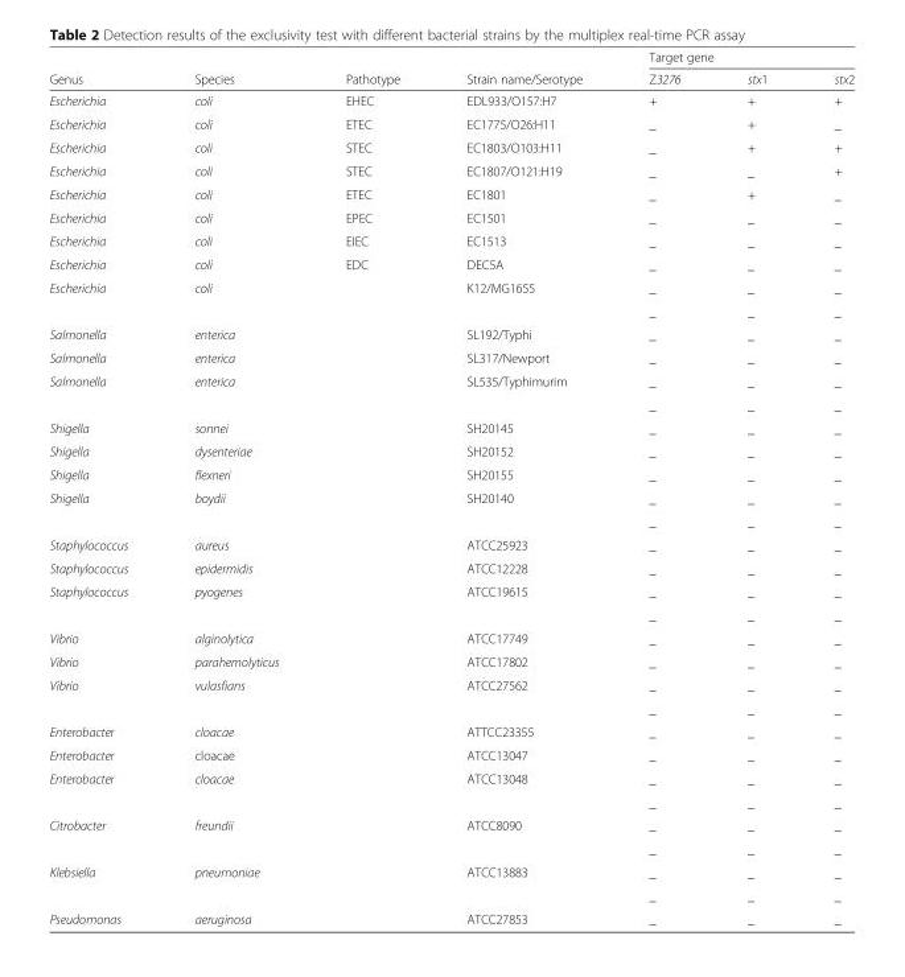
<table><thead><tr><td rowspan="2">Genus</td><td rowspan="2">Species</td><td rowspan="2">Pathotype</td><td rowspan="2">Strain name/Serotype</td><td colspan="3">Target gene</td></tr><tr><td>Z3276</td><td>stx1</td><td>stx2</td></tr></thead><tbody><tr><td>Escherichia</td><td>coli</td><td>EHEC</td><td>EDL933/O157:H7</td><td>+</td><td>+</td><td>+</td></tr><tr><td>Escherichia</td><td>coli</td><td>ETEC</td><td>EC1775/O26:H11</td><td>_</td><td>+</td><td>_</td></tr><tr><td>Escherichia</td><td>coli</td><td>STEC</td><td>EC1803/O103:H11</td><td>_</td><td>+</td><td>+</td></tr><tr><td>Escherichia</td><td>coli</td><td>STEC</td><td>EC1807/O121:H19</td><td>_</td><td>_</td><td>+</td></tr><tr><td>Escherichia</td><td>coli</td><td>ETEC</td><td>EC1801</td><td>_</td><td>+</td><td>_</td></tr><tr><td>Escherichia</td><td>coli</td><td>EPEC</td><td>EC1501</td><td>_</td><td>_</td><td>_</td></tr><tr><td>Escherichia</td><td>coli</td><td>EIEC</td><td>EC1513</td><td>_</td><td>_</td><td>_</td></tr><tr><td>Escherichia</td><td>coli</td><td>EDC</td><td>DEC5A</td><td>_</td><td>_</td><td>_</td></tr><tr><td rowspan="2">Escherichia</td><td>coli</td><td></td><td>K12/MG1655</td><td>_</td><td>_</td><td>_</td></tr><tr><td></td><td></td><td></td><td>_</td><td>_</td><td>_</td></tr><tr><td>Salmonella</td><td>enterica</td><td></td><td>SL192/Typhi</td><td>_</td><td>_</td><td>_</td></tr><tr><td>Salmonella</td><td>enterica</td><td></td><td>SL317/Newport</td><td>_</td><td>_</td><td>_</td></tr><tr><td rowspan="2">Salmonella</td><td>enterica</td><td></td><td>SL535/Typhimurim</td><td>_</td><td>_</td><td>_</td></tr><tr><td></td><td></td><td></td><td>_</td><td>_</td><td>_</td></tr><tr><td>Shigella</td><td>sonnei</td><td></td><td>SH20145</td><td>_</td><td>_</td><td>_</td></tr><tr><td>Shigella</td><td>dysenteriae</td><td></td><td>SH20152</td><td>_</td><td>_</td><td>_</td></tr><tr><td>Shigella</td><td>flexneri</td><td></td><td>SH20155</td><td>_</td><td>_</td><td>_</td></tr><tr><td rowspan="2">Shigella</td><td>boydii</td><td></td><td>SH20140</td><td>_</td><td>_</td><td>_</td></tr><tr><td></td><td></td><td></td><td>_</td><td>_</td><td>_</td></tr><tr><td>Staphylococcus</td><td>aureus</td><td></td><td>ATCC25923</td><td>_</td><td>_</td><td>_</td></tr><tr><td>Staphylococcus</td><td>epidermidis</td><td></td><td>ATCC12228</td><td>_</td><td>_</td><td>_</td></tr><tr><td rowspan="2">Staphylococcus</td><td>pyogenes</td><td></td><td>ATCC19615</td><td>_</td><td>_</td><td>_</td></tr><tr><td></td><td></td><td></td><td>_</td><td>_</td><td>_</td></tr><tr><td>Vibrio</td><td>alginolytica</td><td></td><td>ATCC17749</td><td>_</td><td>_</td><td>_</td></tr><tr><td>Vibrio</td><td>parahemolyticus</td><td></td><td>ATCC17802</td><td>_</td><td>_</td><td>_</td></tr><tr><td rowspan="2">Vibrio</td><td>vulasfians</td><td></td><td>ATCC27562</td><td>_</td><td>_</td><td>_</td></tr><tr><td></td><td></td><td></td><td>_</td><td>_</td><td>_</td></tr><tr><td>Enterobacter</td><td>cloacae</td><td></td><td>ATTCC23355</td><td>_</td><td>_</td><td>_</td></tr><tr><td>Enterobacter</td><td>cloacae</td><td></td><td>ATCC13047</td><td>_</td><td>_</td><td>_</td></tr><tr><td rowspan="2">Enterobacter</td><td>cloacae</td><td></td><td>ATCC13048</td><td>_</td><td>_</td><td>_</td></tr><tr><td></td><td></td><td></td><td>_</td><td>_</td><td>_</td></tr><tr><td rowspan="2">Citrobacter</td><td>freundii</td><td></td><td>ATCC8090</td><td>_</td><td>_</td><td>_</td></tr><tr><td></td><td></td><td></td><td>_</td><td>_</td><td>_</td></tr><tr><td rowspan="2">Klebsiella</td><td>pneumoniae</td><td></td><td>ATCC13883</td><td>_</td><td>_</td><td>_</td></tr><tr><td></td><td></td><td></td><td>_</td><td>_</td><td>_</td></tr><tr><td>Pseudomonas</td><td>aeruginosa</td><td></td><td>ATCC27853</td><td>_</td><td>_</td><td>_</td></tr></tbody></table>